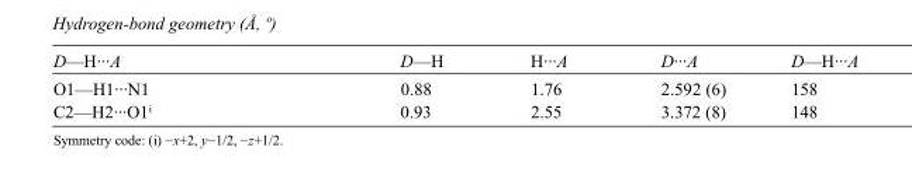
<table><tbody><tr><td>D—H···A</td><td>D—H</td><td>H···A</td><td>D···A</td><td>D—H···A</td></tr><tr><td>O1—H1···N1</td><td>0.88</td><td>1.76</td><td>2.592 (6)</td><td>158</td></tr><tr><td>C2—H2···O1<sup>i</sup></td><td>0.93</td><td>2.55</td><td>3.372 (8)</td><td>148</td></tr></tbody></table>